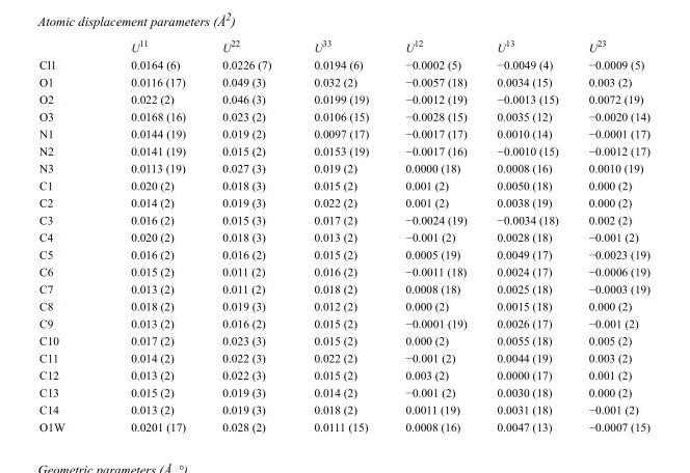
<table><thead><tr><td></td><td>U<sup>11</sup></td><td>U<sup>22</sup></td><td>U<sup>33</sup></td><td>U<sup>12</sup></td><td>U<sup>13</sup></td><td>U<sup>23</sup></td></tr></thead><tbody><tr><td>Cl1</td><td>0.0164 (6)</td><td>0.0226 (7)</td><td>0.0194 (6)</td><td>−0.0002 (5)</td><td>−0.0049 (4)</td><td>−0.0009 (5)</td></tr><tr><td>O1</td><td>0.0116 (17)</td><td>0.049 (3)</td><td>0.032 (2)</td><td>−0.0057 (18)</td><td>0.0034 (15)</td><td>0.003 (2)</td></tr><tr><td>O2</td><td>0.022 (2)</td><td>0.046 (3)</td><td>0.0199 (19)</td><td>−0.0012 (19)</td><td>−0.0013 (15)</td><td>0.0072 (19)</td></tr><tr><td>O3</td><td>0.0168 (16)</td><td>0.023 (2)</td><td>0.0106 (15)</td><td>−0.0028 (15)</td><td>0.0035 (12)</td><td>−0.0020 (14)</td></tr><tr><td>N1</td><td>0.0144 (19)</td><td>0.019 (2)</td><td>0.0097 (17)</td><td>−0.0017 (17)</td><td>0.0010 (14)</td><td>−0.0001 (17)</td></tr><tr><td>N2</td><td>0.0141 (19)</td><td>0.015 (2)</td><td>0.0153 (19)</td><td>−0.0017 (16)</td><td>−0.0010 (15)</td><td>−0.0012 (17)</td></tr><tr><td>N3</td><td>0.0113 (19)</td><td>0.027 (3)</td><td>0.019 (2)</td><td>0.0000 (18)</td><td>0.0008 (16)</td><td>0.0010 (19)</td></tr><tr><td>C1</td><td>0.020 (2)</td><td>0.018 (3)</td><td>0.015 (2)</td><td>0.001 (2)</td><td>0.0050 (18)</td><td>0.000 (2)</td></tr><tr><td>C2</td><td>0.014 (2)</td><td>0.019 (3)</td><td>0.022 (2)</td><td>0.001 (2)</td><td>0.0038 (19)</td><td>0.000 (2)</td></tr><tr><td>C3</td><td>0.016 (2)</td><td>0.015 (3)</td><td>0.017 (2)</td><td>−0.0024 (19)</td><td>−0.0034 (18)</td><td>0.002 (2)</td></tr><tr><td>C4</td><td>0.020 (2)</td><td>0.018 (3)</td><td>0.013 (2)</td><td>−0.001 (2)</td><td>0.0028 (18)</td><td>−0.001 (2)</td></tr><tr><td>C5</td><td>0.016 (2)</td><td>0.016 (2)</td><td>0.015 (2)</td><td>0.0005 (19)</td><td>0.0049 (17)</td><td>−0.0023 (19)</td></tr><tr><td>C6</td><td>0.015 (2)</td><td>0.011 (2)</td><td>0.016 (2)</td><td>−0.0011 (18)</td><td>0.0024 (17)</td><td>−0.0006 (19)</td></tr><tr><td>C7</td><td>0.013 (2)</td><td>0.011 (2)</td><td>0.018 (2)</td><td>0.0008 (18)</td><td>0.0025 (18)</td><td>−0.0003 (19)</td></tr><tr><td>C8</td><td>0.018 (2)</td><td>0.019 (3)</td><td>0.012 (2)</td><td>0.000 (2)</td><td>0.0015 (18)</td><td>0.000 (2)</td></tr><tr><td>C9</td><td>0.013 (2)</td><td>0.016 (2)</td><td>0.015 (2)</td><td>−0.0001 (19)</td><td>0.0026 (17)</td><td>−0.001 (2)</td></tr><tr><td>C10</td><td>0.017 (2)</td><td>0.023 (3)</td><td>0.015 (2)</td><td>0.000 (2)</td><td>0.0055 (18)</td><td>0.005 (2)</td></tr><tr><td>C11</td><td>0.014 (2)</td><td>0.022 (3)</td><td>0.022 (2)</td><td>−0.001 (2)</td><td>0.0044 (19)</td><td>0.003 (2)</td></tr><tr><td>C12</td><td>0.013 (2)</td><td>0.022 (3)</td><td>0.015 (2)</td><td>0.003 (2)</td><td>0.0000 (17)</td><td>0.001 (2)</td></tr><tr><td>C13</td><td>0.015 (2)</td><td>0.019 (3)</td><td>0.014 (2)</td><td>−0.001 (2)</td><td>0.0030 (18)</td><td>0.000 (2)</td></tr><tr><td>C14</td><td>0.013 (2)</td><td>0.019 (3)</td><td>0.018 (2)</td><td>0.0011 (19)</td><td>0.0031 (18)</td><td>−0.001 (2)</td></tr><tr><td>O1W</td><td>0.0201 (17)</td><td>0.028 (2)</td><td>0.0111 (15)</td><td>0.0008 (16)</td><td>0.0047 (13)</td><td>−0.0007 (15)</td></tr></tbody></table>